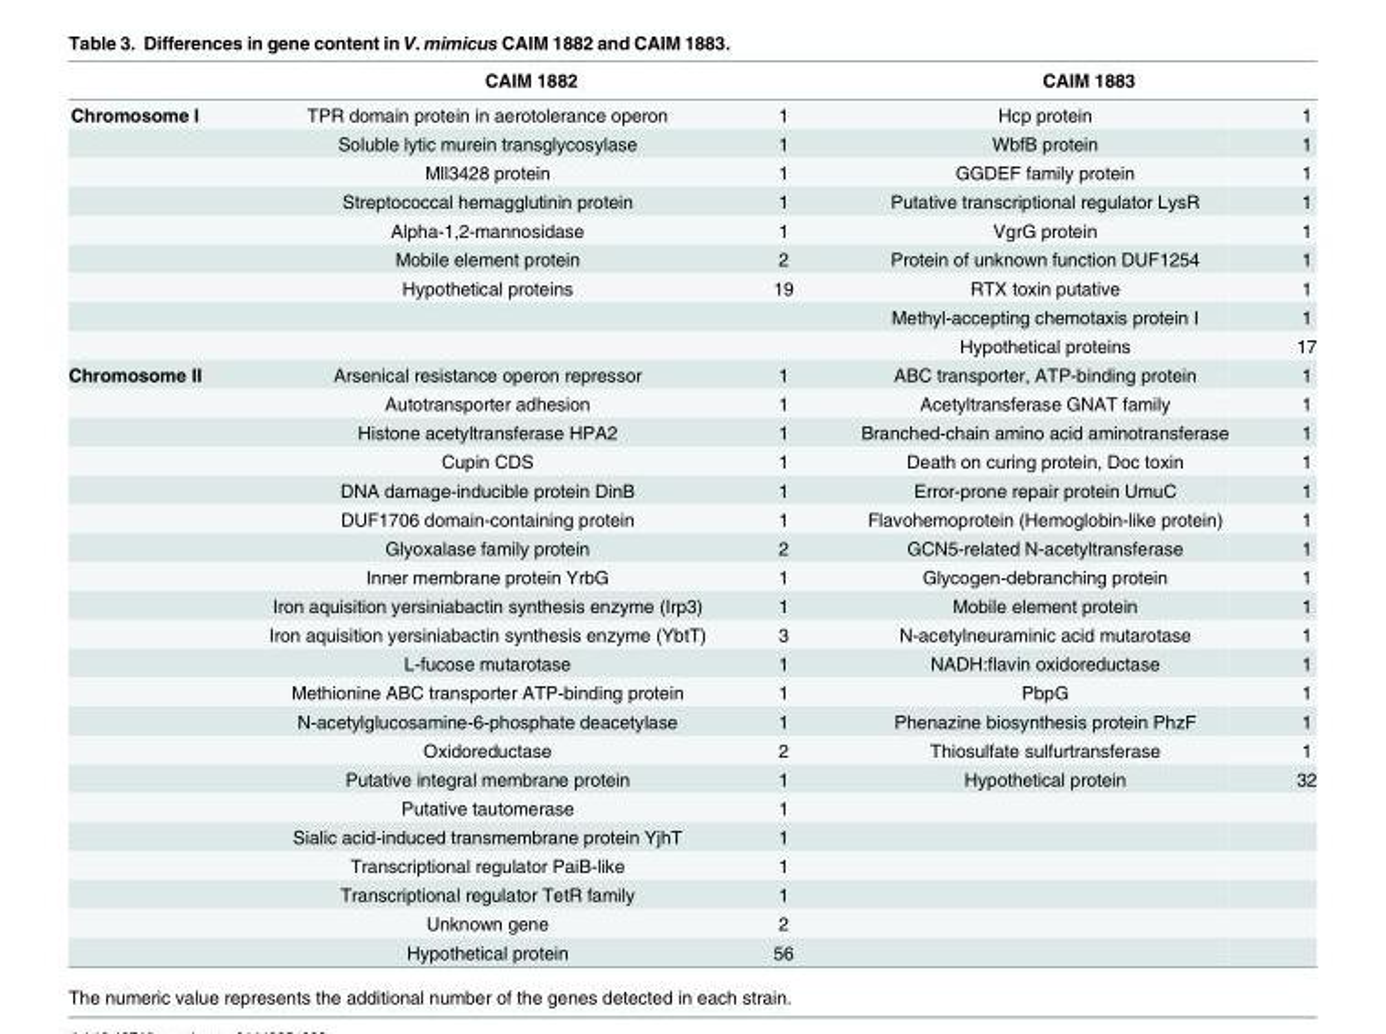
<table><thead><tr><td rowspan="2">Chromosome I</td><td colspan="2">CAIM 1882</td><td colspan="2">CAIM 1883</td></tr><tr><td>TPR domain protein in aerotolerance operon</td><td>1</td><td>Hcp protein</td><td>1</td></tr></thead><tbody><tr><td></td><td>Soluble lytic murein transglycosylase</td><td>1</td><td>WbfB protein</td><td>1</td></tr><tr><td></td><td>Mll3428 protein</td><td>1</td><td>GGDEF family protein</td><td>1</td></tr><tr><td></td><td>Streptococcal hemagglutinin protein</td><td>1</td><td>Putative transcriptional regulator LysR</td><td>1</td></tr><tr><td></td><td>Alpha-1,2-mannosidase</td><td>1</td><td>VgrG protein</td><td>1</td></tr><tr><td></td><td>Mobile element protein</td><td>2</td><td>Protein of unknown function DUF1254</td><td>1</td></tr><tr><td></td><td>Hypothetical proteins</td><td>19</td><td>RTX toxin putative</td><td>1</td></tr><tr><td></td><td></td><td></td><td>Methyl-accepting chemotaxis protein I</td><td>1</td></tr><tr><td></td><td></td><td></td><td>Hypothetical proteins</td><td>17</td></tr><tr><td rowspan="21">Chromosome II</td><td>Arsenical resistance operon repressor</td><td>1</td><td>ABC transporter, ATP-binding protein</td><td>1</td></tr><tr><td>Autotransporter adhesion</td><td>1</td><td>Acetyltransferase GNAT family</td><td>1</td></tr><tr><td>Histone acetyltransferase HPA2</td><td>1</td><td>Branched-chain amino acid aminotransferase</td><td>1</td></tr><tr><td>Cupin CDS</td><td>1</td><td>Death on curing protein, Doc toxin</td><td>1</td></tr><tr><td>DNA damage-inducible protein DinB</td><td>1</td><td>Error-prone repair protein UmuC</td><td>1</td></tr><tr><td>DUF1706 domain-containing protein</td><td>1</td><td>Flavohemoprotein (Hemoglobin-like protein)</td><td>1</td></tr><tr><td>Glyoxalase family protein</td><td>2</td><td>GCN5-related N-acetyltransferase</td><td>1</td></tr><tr><td>Inner membrane protein YrbG</td><td>1</td><td>Glycogen-debranching protein</td><td>1</td></tr><tr><td>Iron aquisition yersiniabactin synthesis enzyme (Irp3)</td><td>1</td><td>Mobile element protein</td><td>1</td></tr><tr><td>Iron aquisition yersiniabactin synthesis enzyme (YbtT)</td><td>3</td><td>N-acetylneuraminic acid mutarotase</td><td>1</td></tr><tr><td>L-fucose mutarotase</td><td>1</td><td>NADH:flavin oxidoreductase</td><td>1</td></tr><tr><td>Methionine ABC transporter ATP-binding protein</td><td>1</td><td>PbpG</td><td>1</td></tr><tr><td>N-acetylglucosamine-6-phosphate deacetylase</td><td>1</td><td>Phenazine biosynthesis protein PhzF</td><td>1</td></tr><tr><td>Oxidoreductase</td><td>2</td><td>Thiosulfate sulfurtransferase</td><td>1</td></tr><tr><td>Putative integral membrane protein</td><td>1</td><td>Hypothetical protein</td><td>32</td></tr><tr><td>Putative tautomerase</td><td>1</td><td></td><td></td></tr><tr><td>Sialic acid-induced transmembrane protein YjhT</td><td>1</td><td></td><td></td></tr><tr><td>Transcriptional regulator PaiB-like</td><td>1</td><td></td><td></td></tr><tr><td>Transcriptional regulator TetR family</td><td>1</td><td></td><td></td></tr><tr><td>Unknown gene</td><td>2</td><td></td><td></td></tr><tr><td>Hypothetical protein</td><td>56</td><td></td><td></td></tr></tbody></table>